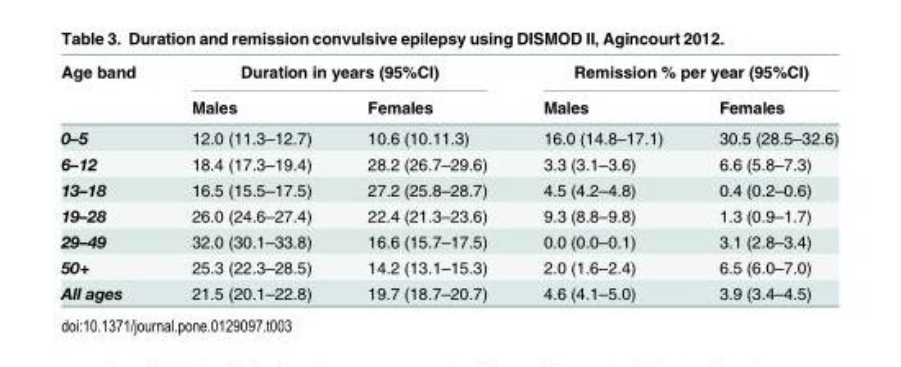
<table><thead><tr><td rowspan="2">Age band</td><td colspan="2">Duration in years (95%CI)</td><td colspan="2">Remission % per year (95%CI)</td></tr><tr><td>Males</td><td>Females</td><td>Males</td><td>Females</td></tr></thead><tbody><tr><td>0–5</td><td>12.0 (11.3–12.7)</td><td>10.6 (10.11.3)</td><td>16.0 (14.8–17.1)</td><td>30.5 (28.5–32.6)</td></tr><tr><td>6–12</td><td>18.4 (17.3–19.4)</td><td>28.2 (26.7–29.6)</td><td>3.3 (3.1–3.6)</td><td>6.6 (5.8–7.3)</td></tr><tr><td>13–18</td><td>16.5 (15.5–17.5)</td><td>27.2 (25.8–28.7)</td><td>4.5 (4.2–4.8)</td><td>0.4 (0.2–0.6)</td></tr><tr><td>19–28</td><td>26.0 (24.6–27.4)</td><td>22.4 (21.3–23.6)</td><td>9.3 (8.8–9.8)</td><td>1.3 (0.9–1.7)</td></tr><tr><td>29–49</td><td>32.0 (30.1–33.8)</td><td>16.6 (15.7–17.5)</td><td>0.0 (0.0–0.1)</td><td>3.1 (2.8–3.4)</td></tr><tr><td>50+</td><td>25.3 (22.3–28.5)</td><td>14.2 (13.1–15.3)</td><td>2.0 (1.6–2.4)</td><td>6.5 (6.0–7.0)</td></tr><tr><td>All ages</td><td>21.5 (20.1–22.8)</td><td>19.7 (18.7–20.7)</td><td>4.6 (4.1–5.0)</td><td>3.9 (3.4–4.5)</td></tr></tbody></table>